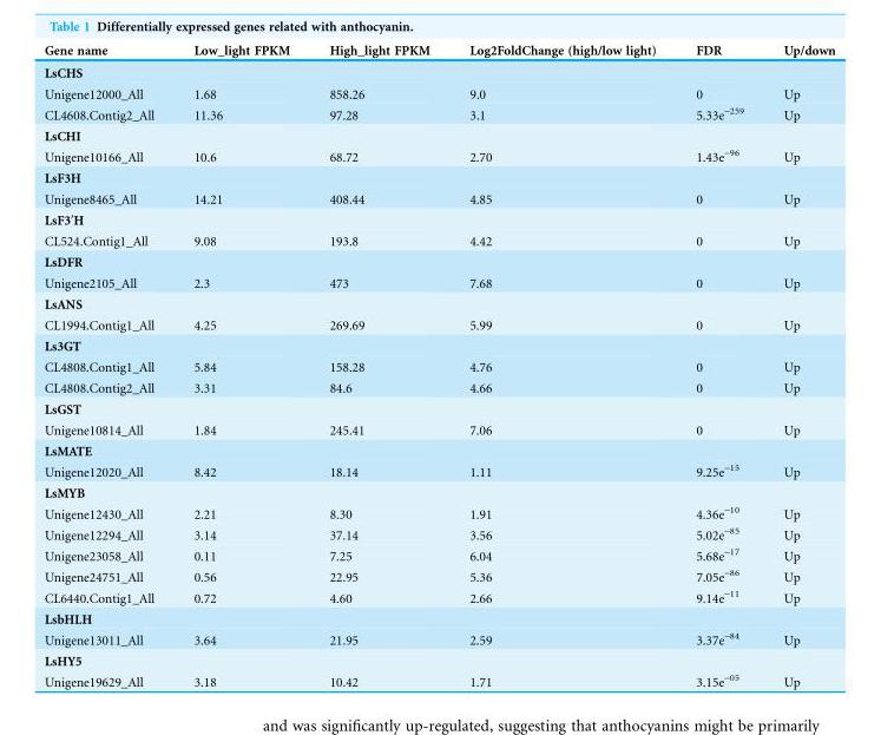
<table><thead><tr><td>Gene name</td><td>Low_light FPKM</td><td>High_light FPKM</td><td>Log2FoldChange (high/low light)</td><td>FDR</td><td>Up/down</td></tr></thead><tbody><tr><td colspan="6">LsCHS</td></tr><tr><td>Unigene12000_All</td><td>1.68</td><td>858.26</td><td>9.0</td><td>0</td><td>Up</td></tr><tr><td>CL4608.Contig2_All</td><td>11.36</td><td>97.28</td><td>3.1</td><td>5.33e<sup>-259</sup></td><td>Up</td></tr><tr><td colspan="6">LsCHI</td></tr><tr><td>Unigene10166_All</td><td>10.6</td><td>68.72</td><td>2.70</td><td>1.43e<sup>-96</sup></td><td>Up</td></tr><tr><td colspan="6">LsF3H</td></tr><tr><td>Unigene8465_All</td><td>14.21</td><td>408.44</td><td>4.85</td><td>0</td><td>Up</td></tr><tr><td colspan="6">LsF3′H</td></tr><tr><td>CL524.Contig1_All</td><td>9.08</td><td>193.8</td><td>4.42</td><td>0</td><td>Up</td></tr><tr><td colspan="6">LsDFR</td></tr><tr><td>Unigene2105_All</td><td>2.3</td><td>473</td><td>7.68</td><td>0</td><td>Up</td></tr><tr><td colspan="6">LsANS</td></tr><tr><td>CL1994.Contig1_All</td><td>4.25</td><td>269.69</td><td>5.99</td><td>0</td><td>Up</td></tr><tr><td colspan="6">Ls3GT</td></tr><tr><td>CL4808.Contig1_All</td><td>5.84</td><td>158.28</td><td>4.76</td><td>0</td><td>Up</td></tr><tr><td>CL4808.Contig2_All</td><td>3.31</td><td>84.6</td><td>4.66</td><td>0</td><td>Up</td></tr><tr><td colspan="6">LsGST</td></tr><tr><td>Unigene10814_All</td><td>1.84</td><td>245.41</td><td>7.06</td><td>0</td><td>Up</td></tr><tr><td colspan="6">LsMATE</td></tr><tr><td>Unigene12020_All</td><td>8.42</td><td>18.14</td><td>1.11</td><td>9.25e<sup>-15</sup></td><td>Up</td></tr><tr><td colspan="6">LsMYB</td></tr><tr><td>Unigene12430_All</td><td>2.21</td><td>8.30</td><td>1.91</td><td>4.36e<sup>-10</sup></td><td>Up</td></tr><tr><td>Unigene12294_All</td><td>3.14</td><td>37.14</td><td>3.56</td><td>5.02e<sup>-85</sup></td><td>Up</td></tr><tr><td>Unigene23058_All</td><td>0.11</td><td>7.25</td><td>6.04</td><td>5.68e<sup>-17</sup></td><td>Up</td></tr><tr><td>Unigene24751_All</td><td>0.56</td><td>22.95</td><td>5.36</td><td>7.05e<sup>-86</sup></td><td>Up</td></tr><tr><td>CL6440.Contig1_All</td><td>0.72</td><td>4.60</td><td>2.66</td><td>9.14e<sup>-11</sup></td><td>Up</td></tr><tr><td colspan="6">LsbHLH</td></tr><tr><td>Unigene13011_All</td><td>3.64</td><td>21.95</td><td>2.59</td><td>3.37e<sup>-84</sup></td><td>Up</td></tr><tr><td colspan="6">LsHY5</td></tr><tr><td>Unigene19629_All</td><td>3.18</td><td>10.42</td><td>1.71</td><td>3.15e<sup>-05</sup></td><td>Up</td></tr></tbody></table>